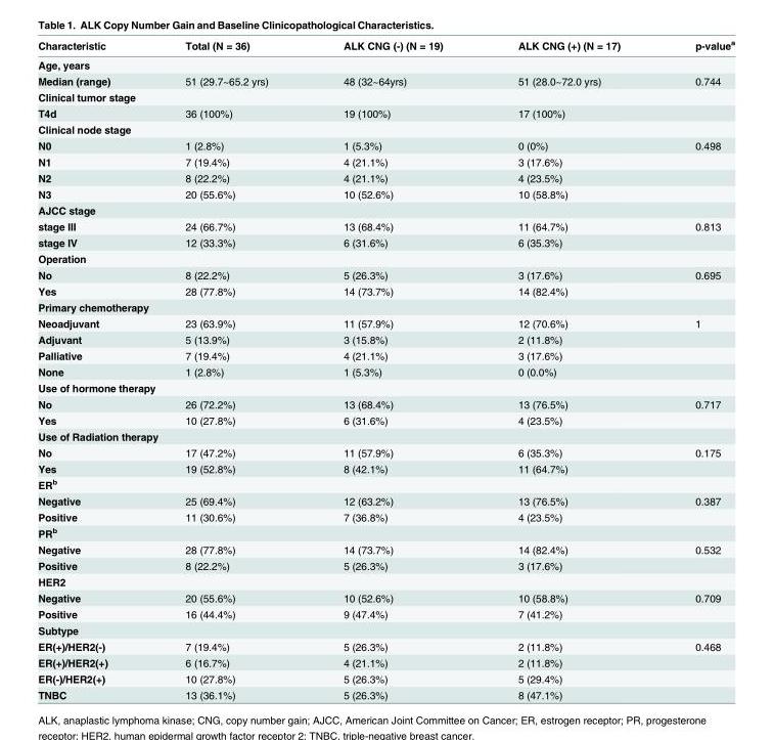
<table><thead><tr><td>Characteristic</td><td>Total (N = 36)</td><td>ALK CNG (-) (N = 19)</td><td>ALK CNG (+) (N = 17)</td><td>p-value<sup>a</sup></td></tr></thead><tbody><tr><td colspan="5">Age, years</td></tr><tr><td>Median (range)</td><td>51 (29.7~65.2 yrs)</td><td>48 (32~64yrs)</td><td>51 (28.0~72.0 yrs)</td><td>0.744</td></tr><tr><td colspan="5">Clinical tumor stage</td></tr><tr><td>T4d</td><td>36 (100%)</td><td>19 (100%)</td><td>17 (100%)</td><td></td></tr><tr><td colspan="5">Clinical node stage</td></tr><tr><td>N0</td><td>1 (2.8%)</td><td>1 (5.3%)</td><td>0 (0%)</td><td>0.498</td></tr><tr><td>N1</td><td>7 (19.4%)</td><td>4 (21.1%)</td><td>3 (17.6%)</td><td></td></tr><tr><td>N2</td><td>8 (22.2%)</td><td>4 (21.1%)</td><td>4 (23.5%)</td><td></td></tr><tr><td>N3</td><td>20 (55.6%)</td><td>10 (52.6%)</td><td>10 (58.8%)</td><td></td></tr><tr><td colspan="5">AJCC stage</td></tr><tr><td>stage III</td><td>24 (66.7%)</td><td>13 (68.4%)</td><td>11 (64.7%)</td><td>0.813</td></tr><tr><td>stage IV</td><td>12 (33.3%)</td><td>6 (31.6%)</td><td>6 (35.3%)</td><td></td></tr><tr><td colspan="5">Operation</td></tr><tr><td>No</td><td>8 (22.2%)</td><td>5 (26.3%)</td><td>3 (17.6%)</td><td>0.695</td></tr><tr><td>Yes</td><td>28 (77.8%)</td><td>14 (73.7%)</td><td>14 (82.4%)</td><td></td></tr><tr><td colspan="5">Primary chemotherapy</td></tr><tr><td>Neoadjuvant</td><td>23 (63.9%)</td><td>11 (57.9%)</td><td>12 (70.6%)</td><td>1</td></tr><tr><td>Adjuvant</td><td>5 (13.9%)</td><td>3 (15.8%)</td><td>2 (11.8%)</td><td></td></tr><tr><td>Palliative</td><td>7 (19.4%)</td><td>4 (21.1%)</td><td>3 (17.6%)</td><td></td></tr><tr><td>None</td><td>1 (2.8%)</td><td>1 (5.3%)</td><td>0 (0.0%)</td><td></td></tr><tr><td colspan="5">Use of hormone therapy</td></tr><tr><td>No</td><td>26 (72.2%)</td><td>13 (68.4%)</td><td>13 (76.5%)</td><td>0.717</td></tr><tr><td>Yes</td><td>10 (27.8%)</td><td>6 (31.6%)</td><td>4 (23.5%)</td><td></td></tr><tr><td colspan="5">Use of Radiation therapy</td></tr><tr><td>No</td><td>17 (47.2%)</td><td>11 (57.9%)</td><td>6 (35.3%)</td><td>0.175</td></tr><tr><td>Yes</td><td>19 (52.8%)</td><td>8 (42.1%)</td><td>11 (64.7%)</td><td></td></tr><tr><td colspan="5">ER<sup>b</sup></td></tr><tr><td>Negative</td><td>25 (69.4%)</td><td>12 (63.2%)</td><td>13 (76.5%)</td><td>0.387</td></tr><tr><td>Positive</td><td>11 (30.6%)</td><td>7 (36.8%)</td><td>4 (23.5%)</td><td></td></tr><tr><td colspan="5">PR<sup>b</sup></td></tr><tr><td>Negative</td><td>28 (77.8%)</td><td>14 (73.7%)</td><td>14 (82.4%)</td><td>0.532</td></tr><tr><td>Positive</td><td>8 (22.2%)</td><td>5 (26.3%)</td><td>3 (17.6%)</td><td></td></tr><tr><td colspan="5">HER2</td></tr><tr><td>Negative</td><td>20 (55.6%)</td><td>10 (52.6%)</td><td>10 (58.8%)</td><td>0.709</td></tr><tr><td>Positive</td><td>16 (44.4%)</td><td>9 (47.4%)</td><td>7 (41.2%)</td><td></td></tr><tr><td colspan="5">Subtype</td></tr><tr><td>ER(+)/HER2(-)</td><td>7 (19.4%)</td><td>5 (26.3%)</td><td>2 (11.8%)</td><td>0.468</td></tr><tr><td>ER(+)/HER2(+)</td><td>6 (16.7%)</td><td>4 (21.1%)</td><td>2 (11.8%)</td><td></td></tr><tr><td>ER(-)/HER2(+)</td><td>10 (27.8%)</td><td>5 (26.3%)</td><td>5 (29.4%)</td><td></td></tr><tr><td>TNBC</td><td>13 (36.1%)</td><td>5 (26.3%)</td><td>8 (47.1%)</td><td></td></tr></tbody></table>